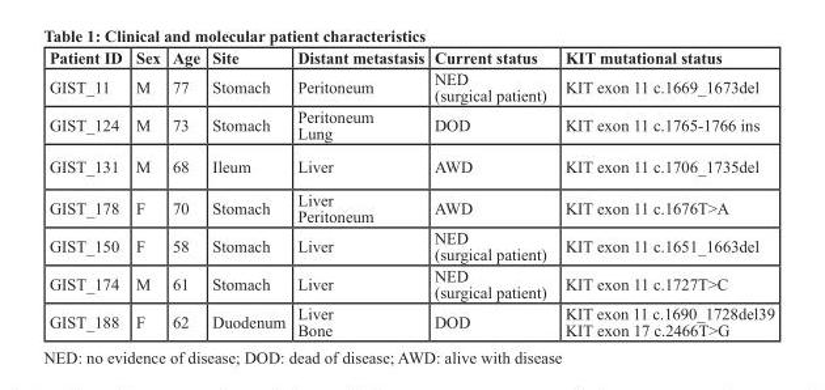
<table><thead><tr><td>Patient ID</td><td>Sex</td><td>Age</td><td>Site</td><td>Distant metastasis</td><td>Current status</td><td>KIT mutational status</td></tr></thead><tbody><tr><td>GIST_11</td><td>M</td><td>77</td><td>Stomach</td><td>Peritoneum</td><td>NED (surgical patient)</td><td>KIT exon 11 c.1669_1673del</td></tr><tr><td>GIST_124</td><td>M</td><td>73</td><td>Stomach</td><td>Peritoneum Lung</td><td>DOD</td><td>KIT exon 11 c.1765-1766 ins</td></tr><tr><td>GIST_131</td><td>M</td><td>68</td><td>Ileum</td><td>Liver</td><td>AWD</td><td>KIT exon 11 c.1706_1735del</td></tr><tr><td>GIST_178</td><td>F</td><td>70</td><td>Stomach</td><td>Liver Peritoneum</td><td>AWD</td><td>KIT exon 11 c.1676T&gt;A</td></tr><tr><td>GIST_150</td><td>F</td><td>58</td><td>Stomach</td><td>Liver</td><td>NED (surgical patient)</td><td>KIT exon 11 c.1651_1663del</td></tr><tr><td>GIST_174</td><td>M</td><td>61</td><td>Stomach</td><td>Liver</td><td>NED (surgical patient)</td><td>KIT exon 11 c.1727T&gt;C</td></tr><tr><td>GIST_188</td><td>F</td><td>62</td><td>Duodenum</td><td>Liver Bone</td><td>DOD</td><td>KIT exon 11 c.1690_1728del39 KIT exon 17 c.2466T&gt;G</td></tr></tbody></table>